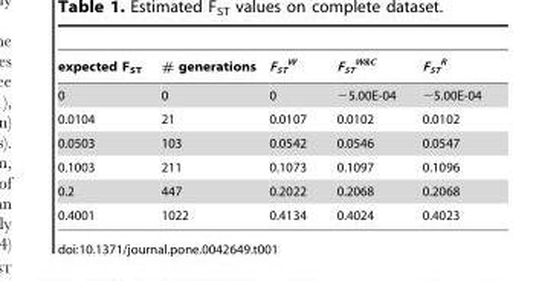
<table><thead><tr><td>expected F<sub>ST</sub></td><td># generations</td><td>F<sub>ST</sub> <sup>W</sup></td><td>F<sub>ST</sub> <sup>W&amp;C</sup></td><td>F<sub>ST</sub> <sup>R</sup></td></tr></thead><tbody><tr><td>0</td><td>0</td><td>0</td><td>−5.00E-04</td><td>−5.00E-04</td></tr><tr><td>0.0104</td><td>21</td><td>0.0107</td><td>0.0102</td><td>0.0102</td></tr><tr><td>0.0503</td><td>103</td><td>0.0542</td><td>0.0546</td><td>0.0547</td></tr><tr><td>0.1003</td><td>211</td><td>0.1073</td><td>0.1097</td><td>0.1096</td></tr><tr><td>0.2</td><td>447</td><td>0.2022</td><td>0.2068</td><td>0.2068</td></tr><tr><td>0.4001</td><td>1022</td><td>0.4134</td><td>0.4024</td><td>0.4023</td></tr></tbody></table>